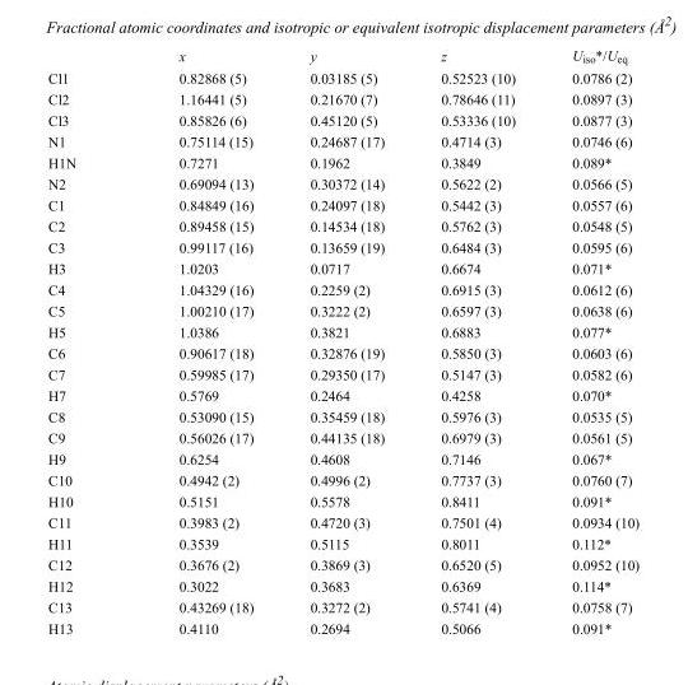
<table><thead><tr><td></td><td>x</td><td>y</td><td>z</td><td>U<sub>iso</sub>*/U<sub>eq</sub></td></tr></thead><tbody><tr><td>Cl1</td><td>0.82868 (5)</td><td>0.03185 (5)</td><td>0.52523 (10)</td><td>0.0786 (2)</td></tr><tr><td>Cl2</td><td>1.16441 (5)</td><td>0.21670 (7)</td><td>0.78646 (11)</td><td>0.0897 (3)</td></tr><tr><td>Cl3</td><td>0.85826 (6)</td><td>0.45120 (5)</td><td>0.53336 (10)</td><td>0.0877 (3)</td></tr><tr><td>N1</td><td>0.75114 (15)</td><td>0.24687 (17)</td><td>0.4714 (3)</td><td>0.0746 (6)</td></tr><tr><td>H1N</td><td>0.7271</td><td>0.1962</td><td>0.3849</td><td>0.089*</td></tr><tr><td>N2</td><td>0.69094 (13)</td><td>0.30372 (14)</td><td>0.5622 (2)</td><td>0.0566 (5)</td></tr><tr><td>C1</td><td>0.84849 (16)</td><td>0.24097 (18)</td><td>0.5442 (3)</td><td>0.0557 (6)</td></tr><tr><td>C2</td><td>0.89458 (15)</td><td>0.14534 (18)</td><td>0.5762 (3)</td><td>0.0548 (5)</td></tr><tr><td>C3</td><td>0.99117 (16)</td><td>0.13659 (19)</td><td>0.6484 (3)</td><td>0.0595 (6)</td></tr><tr><td>H3</td><td>1.0203</td><td>0.0717</td><td>0.6674</td><td>0.071*</td></tr><tr><td>C4</td><td>1.04329 (16)</td><td>0.2259 (2)</td><td>0.6915 (3)</td><td>0.0612 (6)</td></tr><tr><td>C5</td><td>1.00210 (17)</td><td>0.3222 (2)</td><td>0.6597 (3)</td><td>0.0638 (6)</td></tr><tr><td>H5</td><td>1.0386</td><td>0.3821</td><td>0.6883</td><td>0.077*</td></tr><tr><td>C6</td><td>0.90617 (18)</td><td>0.32876 (19)</td><td>0.5850 (3)</td><td>0.0603 (6)</td></tr><tr><td>C7</td><td>0.59985 (17)</td><td>0.29350 (17)</td><td>0.5147 (3)</td><td>0.0582 (6)</td></tr><tr><td>H7</td><td>0.5769</td><td>0.2464</td><td>0.4258</td><td>0.070*</td></tr><tr><td>C8</td><td>0.53090 (15)</td><td>0.35459 (18)</td><td>0.5976 (3)</td><td>0.0535 (5)</td></tr><tr><td>C9</td><td>0.56026 (17)</td><td>0.44135 (18)</td><td>0.6979 (3)</td><td>0.0561 (5)</td></tr><tr><td>H9</td><td>0.6254</td><td>0.4608</td><td>0.7146</td><td>0.067*</td></tr><tr><td>C10</td><td>0.4942 (2)</td><td>0.4996 (2)</td><td>0.7737 (3)</td><td>0.0760 (7)</td></tr><tr><td>H10</td><td>0.5151</td><td>0.5578</td><td>0.8411</td><td>0.091*</td></tr><tr><td>C11</td><td>0.3983 (2)</td><td>0.4720 (3)</td><td>0.7501 (4)</td><td>0.0934 (10)</td></tr><tr><td>H11</td><td>0.3539</td><td>0.5115</td><td>0.8011</td><td>0.112*</td></tr><tr><td>C12</td><td>0.3676 (2)</td><td>0.3869 (3)</td><td>0.6520 (5)</td><td>0.0952 (10)</td></tr><tr><td>H12</td><td>0.3022</td><td>0.3683</td><td>0.6369</td><td>0.114*</td></tr><tr><td>C13</td><td>0.43269 (18)</td><td>0.3272 (2)</td><td>0.5741 (4)</td><td>0.0758 (7)</td></tr><tr><td>H13</td><td>0.4110</td><td>0.2694</td><td>0.5066</td><td>0.091*</td></tr></tbody></table>